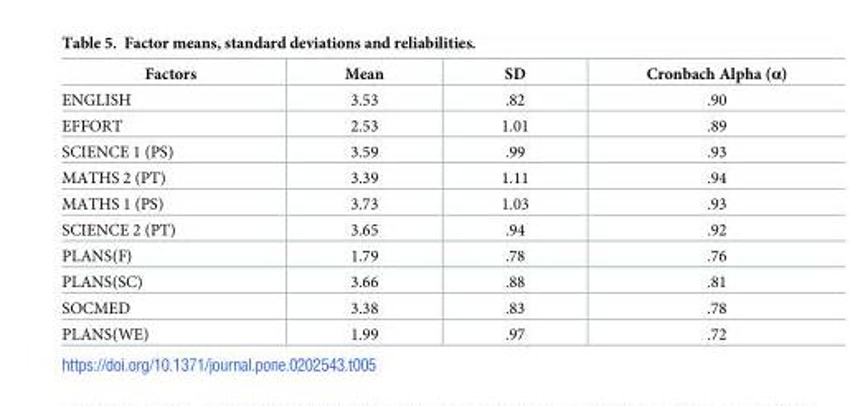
<table><thead><tr><td>Factors</td><td>Mean</td><td>SD</td><td>Cronbach Alpha (α)</td></tr></thead><tbody><tr><td>ENGLISH</td><td>3.53</td><td>.82</td><td>.90</td></tr><tr><td>EFFORT</td><td>2.53</td><td>1.01</td><td>.89</td></tr><tr><td>SCIENCE 1 (PS)</td><td>3.59</td><td>.99</td><td>.93</td></tr><tr><td>MATHS 2 (PT)</td><td>3.39</td><td>1.11</td><td>.94</td></tr><tr><td>MATHS 1 (PS)</td><td>3.73</td><td>1.03</td><td>.93</td></tr><tr><td>SCIENCE 2 (PT)</td><td>3.65</td><td>.94</td><td>.92</td></tr><tr><td>PLANS(F)</td><td>1.79</td><td>.78</td><td>.76</td></tr><tr><td>PLANS(SC)</td><td>3.66</td><td>.88</td><td>.81</td></tr><tr><td>SOCMED</td><td>3.38</td><td>.83</td><td>.78</td></tr><tr><td>PLANS(WE)</td><td>1.99</td><td>.97</td><td>.72</td></tr></tbody></table>